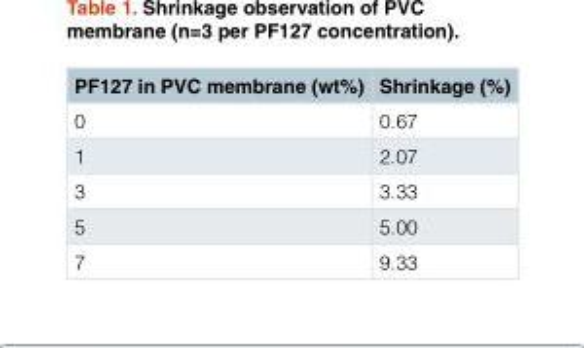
<table><thead><tr><td>PF127 in PVC membrane (wt%)</td><td>Shrinkage (%)</td></tr></thead><tbody><tr><td>0</td><td>0.67</td></tr><tr><td>1</td><td>2.07</td></tr><tr><td>3</td><td>3.33</td></tr><tr><td>5</td><td>5.00</td></tr><tr><td>7</td><td>9.33</td></tr></tbody></table>